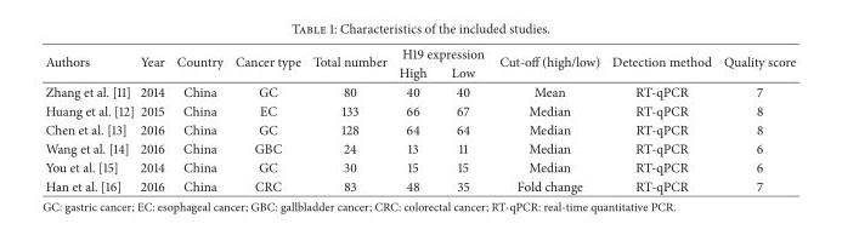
<table><thead><tr><td rowspan="2">Authors</td><td rowspan="2">Year</td><td rowspan="2">Country</td><td rowspan="2">Cancer type</td><td rowspan="2">Total number</td><td colspan="2">H19 expression</td><td rowspan="2">Cut-off (high/low)</td><td rowspan="2">Detection method</td><td rowspan="2">Quality score</td></tr><tr><td>High</td><td>Low</td></tr></thead><tbody><tr><td>Zhang et al. [11]</td><td>2014</td><td>China</td><td>GC</td><td>80</td><td>40</td><td>40</td><td>Mean</td><td>RT-qPCR</td><td>7</td></tr><tr><td>Huang et al. [12]</td><td>2015</td><td>China</td><td>EC</td><td>133</td><td>66</td><td>67</td><td>Median</td><td>RT-qPCR</td><td>8</td></tr><tr><td>Chen et al. [13]</td><td>2016</td><td>China</td><td>GC</td><td>128</td><td>64</td><td>64</td><td>Median</td><td>RT-qPCR</td><td>8</td></tr><tr><td>Wang et al. [14]</td><td>2016</td><td>China</td><td>GBC</td><td>24</td><td>13</td><td>11</td><td>Median</td><td>RT-qPCR</td><td>6</td></tr><tr><td>You et al. [15]</td><td>2014</td><td>China</td><td>GC</td><td>30</td><td>15</td><td>15</td><td>Median</td><td>RT-qPCR</td><td>6</td></tr><tr><td>Han et al. [16]</td><td>2016</td><td>China</td><td>CRC</td><td>83</td><td>48</td><td>35</td><td>Fold change</td><td>RT-qPCR</td><td>7</td></tr></tbody></table>